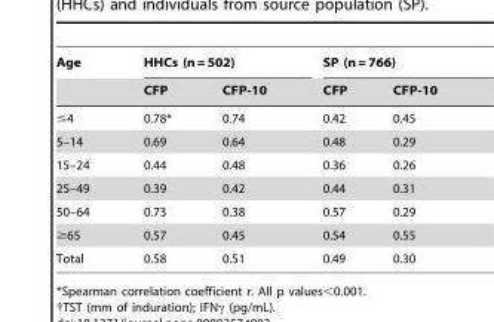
<table><thead><tr><td rowspan="2">Age</td><td colspan="2">HHCs (n = 502)</td><td colspan="2">SP (n = 766)</td></tr><tr><td>CFP</td><td>CFP-10</td><td>CFP</td><td>CFP-10</td></tr></thead><tbody><tr><td>≤4</td><td>0.78*</td><td>0.74</td><td>0.42</td><td>0.45</td></tr><tr><td>5–14</td><td>0.69</td><td>0.64</td><td>0.48</td><td>0.29</td></tr><tr><td>15–24</td><td>0.44</td><td>0.48</td><td>0.36</td><td>0.26</td></tr><tr><td>25–49</td><td>0.39</td><td>0.42</td><td>0.44</td><td>0.31</td></tr><tr><td>50–64</td><td>0.73</td><td>0.38</td><td>0.57</td><td>0.29</td></tr><tr><td>≥65</td><td>0.57</td><td>0.45</td><td>0.54</td><td>0.55</td></tr><tr><td>Total</td><td>0.58</td><td>0.51</td><td>0.49</td><td>0.30</td></tr></tbody></table>